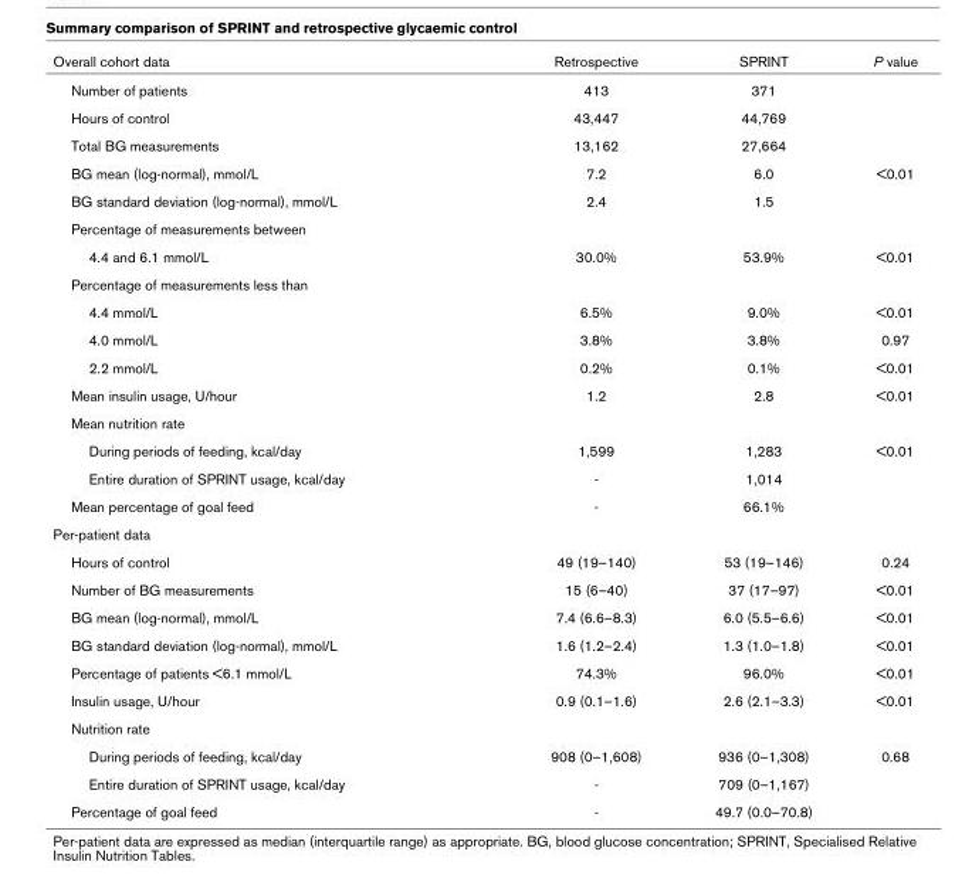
<table><thead><tr><td>Overall cohort data</td><td>Retrospective</td><td>SPRINT</td><td>P value</td></tr></thead><tbody><tr><td>Number of patients</td><td>413</td><td>371</td><td></td></tr><tr><td>Hours of control</td><td>43,447</td><td>44,769</td><td></td></tr><tr><td>Total BG measurements</td><td>13,162</td><td>27,664</td><td></td></tr><tr><td>BG mean (log-normal), mmol/L</td><td>7.2</td><td>6.0</td><td>&lt;0.01</td></tr><tr><td>BG standard deviation (log-normal), mmol/L</td><td>2.4</td><td>1.5</td><td></td></tr><tr><td colspan="4">Percentage of measurements between</td></tr><tr><td>4.4 and 6.1 mmol/L</td><td>30.0%</td><td>53.9%</td><td>&lt;0.01</td></tr><tr><td colspan="4">Percentage of measurements less than</td></tr><tr><td>4.4 mmol/L</td><td>6.5%</td><td>9.0%</td><td>&lt;0.01</td></tr><tr><td>4.0 mmol/L</td><td>3.8%</td><td>3.8%</td><td>0.97</td></tr><tr><td>2.2 mmol/L</td><td>0.2%</td><td>0.1%</td><td>&lt;0.01</td></tr><tr><td>Mean insulin usage, U/hour</td><td>1.2</td><td>2.8</td><td>&lt;0.01</td></tr><tr><td colspan="4">Mean nutrition rate</td></tr><tr><td>During periods of feeding, kcal/day</td><td>1,599</td><td>1,283</td><td>&lt;0.01</td></tr><tr><td>Entire duration of SPRINT usage, kcal/day</td><td>-</td><td>1,014</td><td></td></tr><tr><td>Mean percentage of goal feed</td><td>-</td><td>66.1%</td><td></td></tr><tr><td colspan="4">Per-patient data</td></tr><tr><td>Hours of control</td><td>49 (19–140)</td><td>53 (19–146)</td><td>0.24</td></tr><tr><td>Number of BG measurements</td><td>15 (6–40)</td><td>37 (17–97)</td><td>&lt;0.01</td></tr><tr><td>BG mean (log-normal), mmol/L</td><td>7.4 (6.6–8.3)</td><td>6.0 (5.5–6.6)</td><td>&lt;0.01</td></tr><tr><td>BG standard deviation (log-normal), mmol/L</td><td>1.6 (1.2–2.4)</td><td>1.3 (1.0–1.8)</td><td>&lt;0.01</td></tr><tr><td>Percentage of patients &lt;6.1 mmol/L</td><td>74.3%</td><td>96.0%</td><td>&lt;0.01</td></tr><tr><td>Insulin usage, U/hour</td><td>0.9 (0.1–1.6)</td><td>2.6 (2.1–3.3)</td><td>&lt;0.01</td></tr><tr><td colspan="4">Nutrition rate</td></tr><tr><td>During periods of feeding, kcal/day</td><td>908 (0–1,608)</td><td>936 (0–1,308)</td><td>0.68</td></tr><tr><td>Entire duration of SPRINT usage, kcal/day</td><td>-</td><td>709 (0–1,167)</td><td></td></tr><tr><td>Percentage of goal feed</td><td>-</td><td>49.7 (0.0–70.8)</td><td></td></tr></tbody></table>